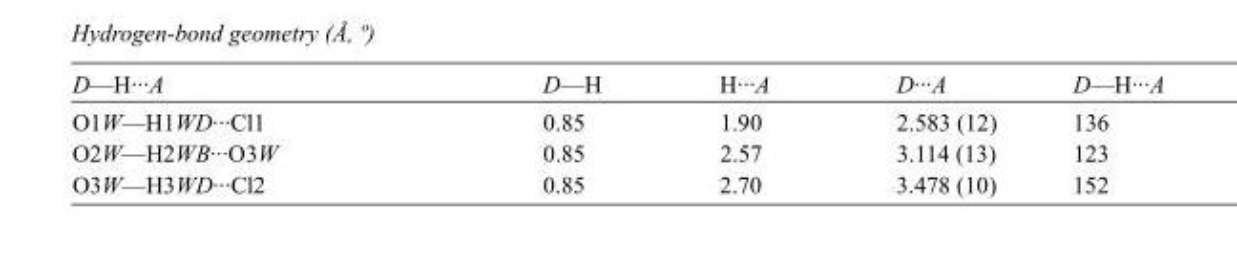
<table><tbody><tr><td>D—H···A</td><td>D—H</td><td>H···A</td><td>D···A</td><td>D—H···A</td></tr><tr><td>O1W—H1WD···Cl1</td><td>0.85</td><td>1.90</td><td>2.583 (12)</td><td>136</td></tr><tr><td>O2W—H2WB···O3W</td><td>0.85</td><td>2.57</td><td>3.114 (13)</td><td>123</td></tr><tr><td>O3W—H3WD···Cl2</td><td>0.85</td><td>2.70</td><td>3.478 (10)</td><td>152</td></tr></tbody></table>